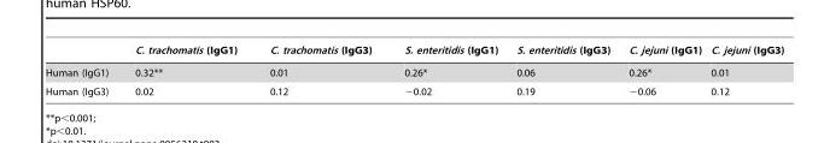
<table><thead><tr><td></td><td>C. trachomatis (IgG1)</td><td>C. trachomatis (IgG3)</td><td>S. enteritidis (IgG1)</td><td>S. enteritidis (IgG3)</td><td>C. jejuni (IgG1)</td><td>C. jejuni (IgG3)</td></tr></thead><tbody><tr><td>Human (IgG1)</td><td>0.32**</td><td>0.01</td><td>0.26*</td><td>0.06</td><td>0.26*</td><td>0.01</td></tr><tr><td>Human (IgG3)</td><td>0.02</td><td>0.12</td><td>−0.02</td><td>0.19</td><td>−0.06</td><td>0.12</td></tr></tbody></table>